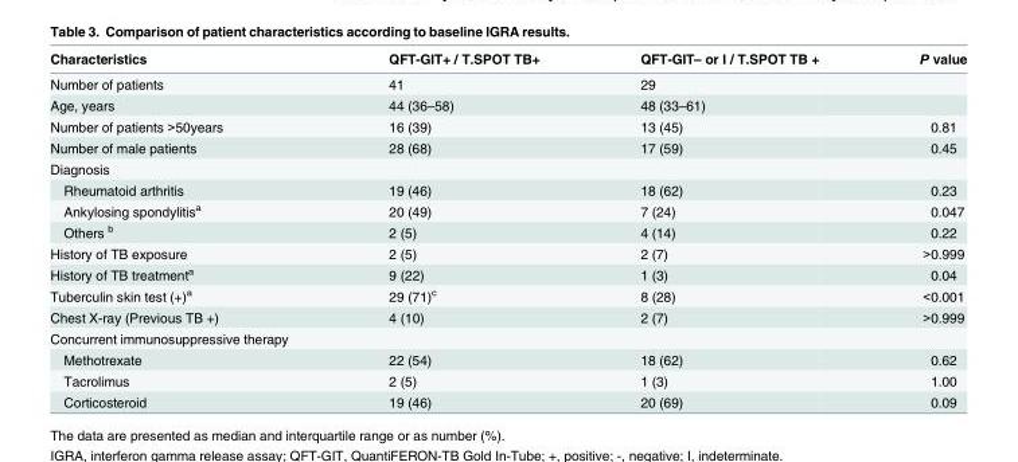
<table><thead><tr><td>Characteristics</td><td>QFT-GIT+ / T.SPOT TB+</td><td>QFT-GIT– or I / T.SPOT TB +</td><td>P value</td></tr></thead><tbody><tr><td>Number of patients</td><td>41</td><td>29</td><td></td></tr><tr><td>Age, years</td><td>44 (36–58)</td><td>48 (33–61)</td><td></td></tr><tr><td>Number of patients &gt;50years</td><td>16 (39)</td><td>13 (45)</td><td>0.81</td></tr><tr><td>Number of male patients</td><td>28 (68)</td><td>17 (59)</td><td>0.45</td></tr><tr><td colspan="4">Diagnosis</td></tr><tr><td>Rheumatoid arthritis</td><td>19 (46)</td><td>18 (62)</td><td>0.23</td></tr><tr><td>Ankylosing spondylitis<sup>a</sup></td><td>20 (49)</td><td>7 (24)</td><td>0.047</td></tr><tr><td>Others <sup>b</sup></td><td>2 (5)</td><td>4 (14)</td><td>0.22</td></tr><tr><td>History of TB exposure</td><td>2 (5)</td><td>2 (7)</td><td>&gt;0.999</td></tr><tr><td>History of TB treatment<sup>a</sup></td><td>9 (22)</td><td>1 (3)</td><td>0.04</td></tr><tr><td>Tuberculin skin test (+)<sup>a</sup></td><td>29 (71)<sup>c</sup></td><td>8 (28)</td><td>&lt;0.001</td></tr><tr><td>Chest X-ray (Previous TB +)</td><td>4 (10)</td><td>2 (7)</td><td>&gt;0.999</td></tr><tr><td colspan="4">Concurrent immunosuppressive therapy</td></tr><tr><td>Methotrexate</td><td>22 (54)</td><td>18 (62)</td><td>0.62</td></tr><tr><td>Tacrolimus</td><td>2 (5)</td><td>1 (3)</td><td>1.00</td></tr><tr><td>Corticosteroid</td><td>19 (46)</td><td>20 (69)</td><td>0.09</td></tr></tbody></table>